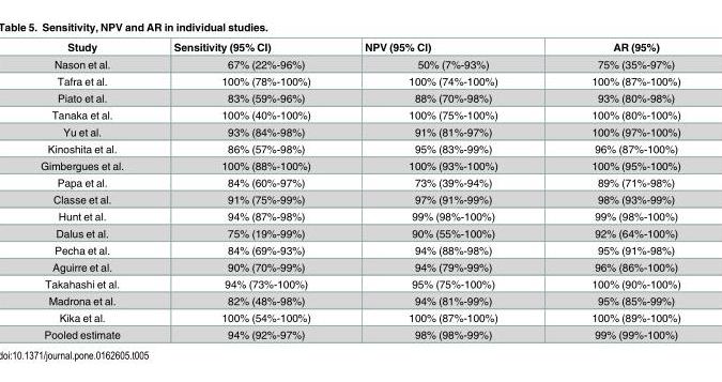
<table><thead><tr><td>Study</td><td>Sensitivity (95% CI)</td><td>NPV (95% CI)</td><td>AR (95%)</td></tr></thead><tbody><tr><td>Nason et al.</td><td>67% (22%-96%)</td><td>50% (7%-93%)</td><td>75% (35%-97%)</td></tr><tr><td>Tafra et al.</td><td>100% (78%-100%)</td><td>100% (74%-100%)</td><td>100% (87%-100%)</td></tr><tr><td>Piato et al.</td><td>83% (59%-96%)</td><td>88% (70%-98%)</td><td>93% (80%-98%)</td></tr><tr><td>Tanaka et al.</td><td>100% (40%-100%)</td><td>100% (75%-100%)</td><td>100% (80%-100%)</td></tr><tr><td>Yu et al.</td><td>93% (84%-98%)</td><td>91% (81%-97%)</td><td>100% (97%-100%)</td></tr><tr><td>Kinoshita et al.</td><td>86% (57%-98%)</td><td>95% (83%-99%)</td><td>96% (87%-100%)</td></tr><tr><td>Gimbergues et al.</td><td>100% (88%-100%)</td><td>100% (93%-100%)</td><td>100% (95%-100%)</td></tr><tr><td>Papa et al.</td><td>84% (60%-97%)</td><td>73% (39%-94%)</td><td>89% (71%-98%)</td></tr><tr><td>Classe et al.</td><td>91% (75%-99%)</td><td>97% (91%-99%)</td><td>98% (93%-99%)</td></tr><tr><td>Hunt et al.</td><td>94% (87%-98%)</td><td>99% (98%-100%)</td><td>99% (98%-100%)</td></tr><tr><td>Dalus et al.</td><td>75% (19%-99%)</td><td>90% (55%-100%)</td><td>92% (64%-100%)</td></tr><tr><td>Pecha et al.</td><td>84% (69%-93%)</td><td>94% (88%-98%)</td><td>95% (91%-98%)</td></tr><tr><td>Aguirre et al.</td><td>90% (70%-99%)</td><td>94% (79%-99%)</td><td>96% (86%-100%)</td></tr><tr><td>Takahashi et al.</td><td>94% (73%-100%)</td><td>95% (75%-100%)</td><td>100% (90%-100%)</td></tr><tr><td>Madrona et al.</td><td>82% (48%-98%)</td><td>94% (81%-99%)</td><td>95% (85%-99%)</td></tr><tr><td>Kika et al.</td><td>100% (54%-100%)</td><td>100% (87%-100%)</td><td>100% (89%-100%)</td></tr><tr><td>Pooled estimate</td><td>94% (92%-97%)</td><td>98% (98%-99%)</td><td>99% (99%-100%)</td></tr></tbody></table>